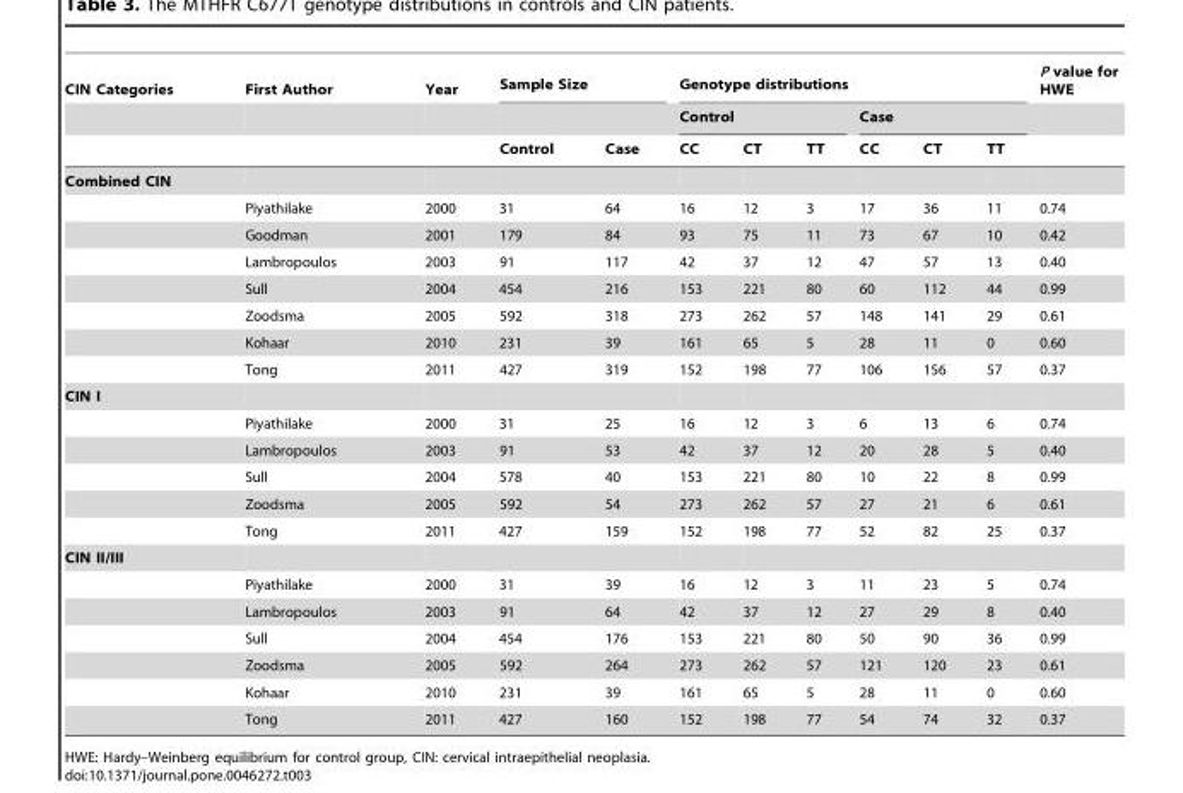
<table><thead><tr><td rowspan="3">CIN Categories</td><td rowspan="3">First Author</td><td rowspan="3">Year</td><td colspan="2">Sample Size</td><td colspan="6">Genotype distributions</td><td rowspan="3">P value for HWE</td></tr><tr><td rowspan="2">Control</td><td rowspan="2">Case</td><td colspan="3">Control</td><td colspan="3">Case</td></tr><tr><td>CC</td><td>CT</td><td>TT</td><td>CC</td><td>CT</td><td>TT</td></tr></thead><tbody><tr><td colspan="12">Combined CIN</td></tr><tr><td></td><td>Piyathilake</td><td>2000</td><td>31</td><td>64</td><td>16</td><td>12</td><td>3</td><td>17</td><td>36</td><td>11</td><td>0.74</td></tr><tr><td></td><td>Goodman</td><td>2001</td><td>179</td><td>84</td><td>93</td><td>75</td><td>11</td><td>73</td><td>67</td><td>10</td><td>0.42</td></tr><tr><td></td><td>Lambropoulos</td><td>2003</td><td>91</td><td>117</td><td>42</td><td>37</td><td>12</td><td>47</td><td>57</td><td>13</td><td>0.40</td></tr><tr><td></td><td>Sull</td><td>2004</td><td>454</td><td>216</td><td>153</td><td>221</td><td>80</td><td>60</td><td>112</td><td>44</td><td>0.99</td></tr><tr><td></td><td>Zoodsma</td><td>2005</td><td>592</td><td>318</td><td>273</td><td>262</td><td>57</td><td>148</td><td>141</td><td>29</td><td>0.61</td></tr><tr><td></td><td>Kohaar</td><td>2010</td><td>231</td><td>39</td><td>161</td><td>65</td><td>5</td><td>28</td><td>11</td><td>0</td><td>0.60</td></tr><tr><td></td><td>Tong</td><td>2011</td><td>427</td><td>319</td><td>152</td><td>198</td><td>77</td><td>106</td><td>156</td><td>57</td><td>0.37</td></tr><tr><td colspan="12">CIN I</td></tr><tr><td></td><td>Piyathilake</td><td>2000</td><td>31</td><td>25</td><td>16</td><td>12</td><td>3</td><td>6</td><td>13</td><td>6</td><td>0.74</td></tr><tr><td></td><td>Lambropoulos</td><td>2003</td><td>91</td><td>53</td><td>42</td><td>37</td><td>12</td><td>20</td><td>28</td><td>5</td><td>0.40</td></tr><tr><td></td><td>Sull</td><td>2004</td><td>578</td><td>40</td><td>153</td><td>221</td><td>80</td><td>10</td><td>22</td><td>8</td><td>0.99</td></tr><tr><td></td><td>Zoodsma</td><td>2005</td><td>592</td><td>54</td><td>273</td><td>262</td><td>57</td><td>27</td><td>21</td><td>6</td><td>0.61</td></tr><tr><td></td><td>Tong</td><td>2011</td><td>427</td><td>159</td><td>152</td><td>198</td><td>77</td><td>52</td><td>82</td><td>25</td><td>0.37</td></tr><tr><td colspan="12">CIN II/III</td></tr><tr><td></td><td>Piyathilake</td><td>2000</td><td>31</td><td>39</td><td>16</td><td>12</td><td>3</td><td>11</td><td>23</td><td>5</td><td>0.74</td></tr><tr><td></td><td>Lambropoulos</td><td>2003</td><td>91</td><td>64</td><td>42</td><td>37</td><td>12</td><td>27</td><td>29</td><td>8</td><td>0.40</td></tr><tr><td></td><td>Sull</td><td>2004</td><td>454</td><td>176</td><td>153</td><td>221</td><td>80</td><td>50</td><td>90</td><td>36</td><td>0.99</td></tr><tr><td></td><td>Zoodsma</td><td>2005</td><td>592</td><td>264</td><td>273</td><td>262</td><td>57</td><td>121</td><td>120</td><td>23</td><td>0.61</td></tr><tr><td></td><td>Kohaar</td><td>2010</td><td>231</td><td>39</td><td>161</td><td>65</td><td>5</td><td>28</td><td>11</td><td>0</td><td>0.60</td></tr><tr><td></td><td>Tong</td><td>2011</td><td>427</td><td>160</td><td>152</td><td>198</td><td>77</td><td>54</td><td>74</td><td>32</td><td>0.37</td></tr></tbody></table>